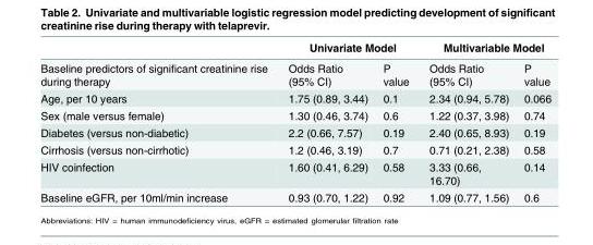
<table><thead><tr><td rowspan="2">Baseline predictors of significant creatinine rise during therapy</td><td colspan="2">Univariate Model</td><td colspan="2">Multivariable Model</td></tr><tr><td>Odds Ratio (95% CI)</td><td>P value</td><td>Odds Ratio (95% CI)</td><td>P value</td></tr></thead><tbody><tr><td>Age, per 10 years</td><td>1.75 (0.89, 3.44)</td><td>0.1</td><td>2.34 (0.94, 5.78)</td><td>0.066</td></tr><tr><td>Sex (male versus female)</td><td>1.30 (0.46, 3.74)</td><td>0.6</td><td>1.22 (0.37, 3.98)</td><td>0.74</td></tr><tr><td>Diabetes (versus non-diabetic)</td><td>2.2 (0.66, 7.57)</td><td>0.19</td><td>2.40 (0.65, 8.93)</td><td>0.19</td></tr><tr><td>Cirrhosis (versus non-cirrhotic)</td><td>1.2 (0.46, 3.19)</td><td>0.7</td><td>0.71 (0.21, 2.38)</td><td>0.58</td></tr><tr><td>HIV coinfection</td><td>1.60 (0.41, 6.29)</td><td>0.58</td><td>3.33 (0.66, 16.70)</td><td>0.14</td></tr><tr><td>Baseline eGFR, per 10ml/min increase</td><td>0.93 (0.70, 1.22)</td><td>0.92</td><td>1.09 (0.77, 1.56)</td><td>0.6</td></tr></tbody></table>